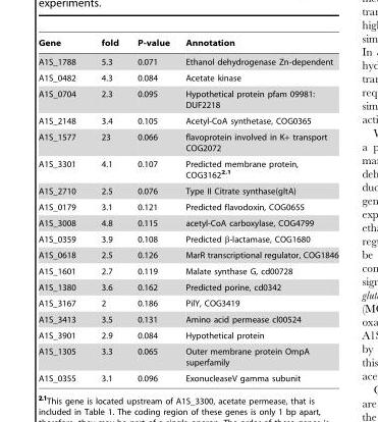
<table><thead><tr><td>Gene</td><td>fold</td><td>P-value</td><td>Annotation</td></tr></thead><tbody><tr><td>A1S_1788</td><td>5.3</td><td>0.071</td><td>Ethanol dehydrogenase Zn-dependent</td></tr><tr><td>A1S_0482</td><td>4.3</td><td>0.084</td><td>Acetate kinase</td></tr><tr><td>A1S_0704</td><td>2.3</td><td>0.095</td><td>Hypothetical protein pfam 09981: DUF2218</td></tr><tr><td>A1S_2148</td><td>3.4</td><td>0.105</td><td>Acetyl-CoA synthetase, COG0365</td></tr><tr><td>A1S_1577</td><td>23</td><td>0.066</td><td>flavoprotein involved in K+ transport COG2072</td></tr><tr><td>A1S_3301</td><td>4.1</td><td>0.107</td><td>Predicted membrane protein, COG31622.1</td></tr><tr><td>A1S_2710</td><td>2.5</td><td>0.076</td><td>Type II Citrate synthase(gltA)</td></tr><tr><td>A1S_0179</td><td>3.1</td><td>0.121</td><td>Predicted flavodoxin, COG0655</td></tr><tr><td>A1S_3008</td><td>4.8</td><td>0.115</td><td>acetyl-CoA carboxylase, COG4799</td></tr><tr><td>A1S_0359</td><td>3.9</td><td>0.108</td><td>Predicted β-lactamase, COG1680</td></tr><tr><td>A1S_0618</td><td>2.5</td><td>0.126</td><td>MarR transcriptional regulator, COG1846</td></tr><tr><td>A1S_1601</td><td>2.7</td><td>0.119</td><td>Malate synthase G, cd00728</td></tr><tr><td>A1S_1380</td><td>3.6</td><td>0.162</td><td>Predicted porine, cd0342</td></tr><tr><td>A1S_3167</td><td>2</td><td>0.186</td><td>PilY, COG3419</td></tr><tr><td>A1S_3413</td><td>3.5</td><td>0.131</td><td>Amino acid permease cl00524</td></tr><tr><td>A1S_3901</td><td>2.9</td><td>0.084</td><td>Hypothetical protein</td></tr><tr><td>A1S_1305</td><td>3.3</td><td>0.065</td><td>Outer membrane protein OmpA superfamily</td></tr><tr><td>A1S_0355</td><td>3.1</td><td>0.096</td><td>ExonucleaseV gamma subunit</td></tr></tbody></table>